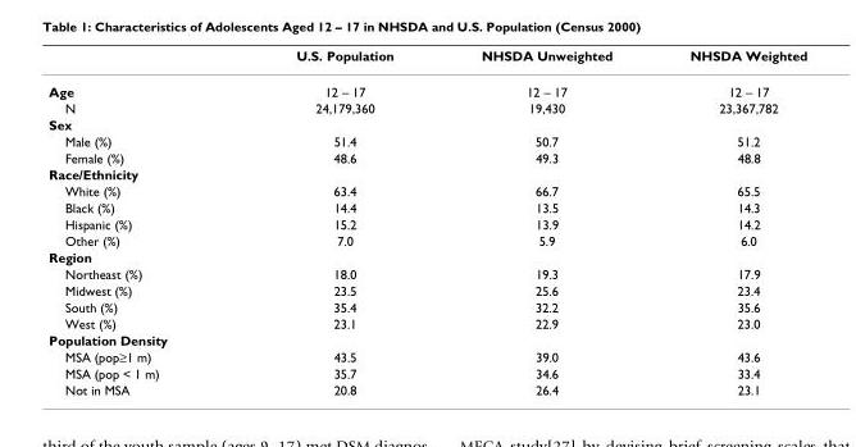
<table><thead><tr><td></td><td>U.S. Population</td><td>NHSDA Unweighted</td><td>NHSDA Weighted</td></tr></thead><tbody><tr><td>Age</td><td>12 – 17</td><td>12 – 17</td><td>12 – 17</td></tr><tr><td>N</td><td>24,179,360</td><td>19,430</td><td>23,367,782</td></tr><tr><td colspan="4">Sex</td></tr><tr><td>Male (%)</td><td>51.4</td><td>50.7</td><td>51.2</td></tr><tr><td>Female (%)</td><td>48.6</td><td>49.3</td><td>48.8</td></tr><tr><td colspan="4">Race/Ethnicity</td></tr><tr><td>White (%)</td><td>63.4</td><td>66.7</td><td>65.5</td></tr><tr><td>Black (%)</td><td>14.4</td><td>13.5</td><td>14.3</td></tr><tr><td>Hispanic (%)</td><td>15.2</td><td>13.9</td><td>14.2</td></tr><tr><td>Other (%)</td><td>7.0</td><td>5.9</td><td>6.0</td></tr><tr><td colspan="4">Region</td></tr><tr><td>Northeast (%)</td><td>18.0</td><td>19.3</td><td>17.9</td></tr><tr><td>Midwest (%)</td><td>23.5</td><td>25.6</td><td>23.4</td></tr><tr><td>South (%)</td><td>35.4</td><td>32.2</td><td>35.6</td></tr><tr><td>West (%)</td><td>23.1</td><td>22.9</td><td>23.0</td></tr><tr><td colspan="4">Population Density</td></tr><tr><td>MSA (pop≥1 m)</td><td>43.5</td><td>39.0</td><td>43.6</td></tr><tr><td>MSA (pop &lt; 1 m)</td><td>35.7</td><td>34.6</td><td>33.4</td></tr><tr><td>Not in MSA</td><td>20.8</td><td>26.4</td><td>23.1</td></tr></tbody></table>